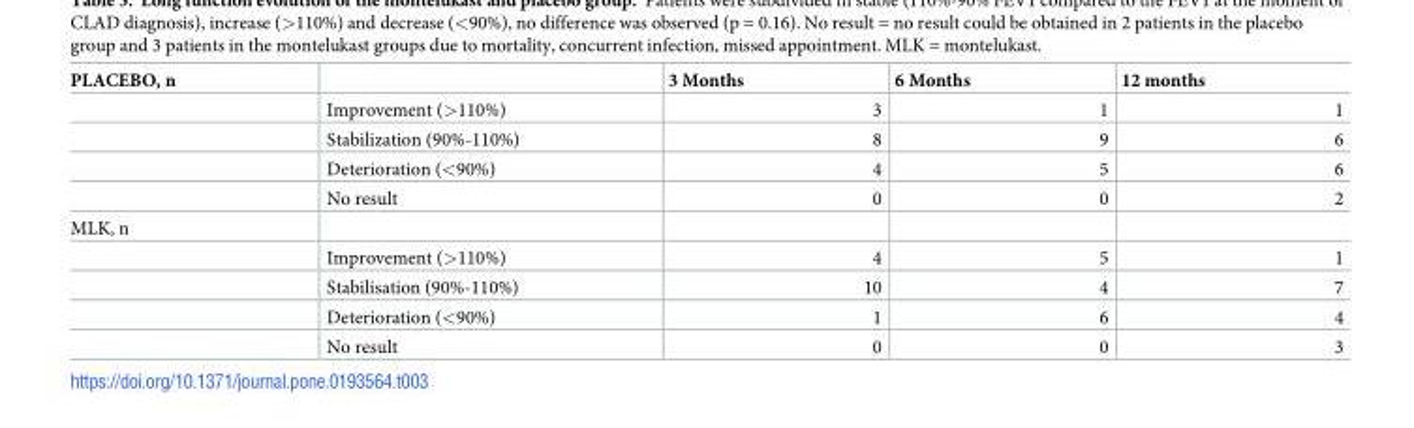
<table><thead><tr><td>PLACEBO, n</td><td></td><td>3 Months</td><td>6 Months</td><td>12 months</td></tr></thead><tbody><tr><td></td><td>Improvement (&gt;110%)</td><td>3</td><td>1</td><td>1</td></tr><tr><td></td><td>Stabilization (90%-110%)</td><td>8</td><td>9</td><td>6</td></tr><tr><td></td><td>Deterioration (&lt;90%)</td><td>4</td><td>5</td><td>6</td></tr><tr><td></td><td>No result</td><td>0</td><td>0</td><td>2</td></tr><tr><td colspan="5">MLK, n</td></tr><tr><td></td><td>Improvement (&gt;110%)</td><td>4</td><td>5</td><td>1</td></tr><tr><td></td><td>Stabilisation (90%-110%)</td><td>10</td><td>4</td><td>7</td></tr><tr><td></td><td>Deterioration (&lt;90%)</td><td>1</td><td>6</td><td>4</td></tr><tr><td></td><td>No result</td><td>0</td><td>0</td><td>3</td></tr></tbody></table>